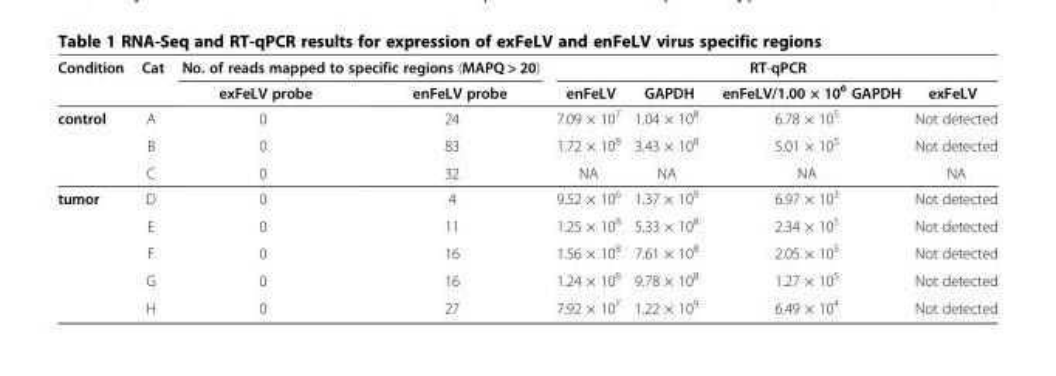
<table><thead><tr><td rowspan="2">Condition</td><td rowspan="2">Cat</td><td colspan="2">No. of reads mapped to specific regions (MAPQ &gt; 20)</td><td colspan="4">RT-qPCR</td></tr><tr><td>exFeLV probe</td><td>enFeLV probe</td><td>enFeLV</td><td>GAPDH</td><td>enFeLV/1.00 × 10<sup>6</sup> GAPDH</td><td>exFeLV</td></tr></thead><tbody><tr><td rowspan="3">control</td><td>A</td><td>0</td><td>24</td><td>7.09 × 10<sup>7</sup></td><td>1.04 × 10<sup>8</sup></td><td>6.78 × 10<sup>5</sup></td><td>Not detected</td></tr><tr><td>B</td><td>0</td><td>83</td><td>1.72 × 10<sup>8</sup></td><td>3.43 × 10<sup>8</sup></td><td>5.01 × 10<sup>5</sup></td><td>Not detected</td></tr><tr><td>C</td><td>0</td><td>32</td><td>NA</td><td>NA</td><td>NA</td><td>NA</td></tr><tr><td rowspan="5">tumor</td><td>D</td><td>0</td><td>4</td><td>9.52 × 10<sup>6</sup></td><td>1.37 × 10<sup>9</sup></td><td>6.97 × 10<sup>3</sup></td><td>Not detected</td></tr><tr><td>E</td><td>0</td><td>11</td><td>1.25 × 10<sup>8</sup></td><td>5.33 × 10<sup>8</sup></td><td>2.34 × 10<sup>5</sup></td><td>Not detected</td></tr><tr><td>F</td><td>0</td><td>16</td><td>1.56 × 10<sup>8</sup></td><td>7.61 × 10<sup>8</sup></td><td>2.05 × 10<sup>5</sup></td><td>Not detected</td></tr><tr><td>G</td><td>0</td><td>16</td><td>1.24 × 10<sup>8</sup></td><td>9.78 × 10<sup>8</sup></td><td>1.27 × 10<sup>5</sup></td><td>Not detected</td></tr><tr><td>H</td><td>0</td><td>27</td><td>7.92 × 10<sup>7</sup></td><td>1.22 × 10<sup>9</sup></td><td>6.49 × 10<sup>4</sup></td><td>Not detected</td></tr></tbody></table>